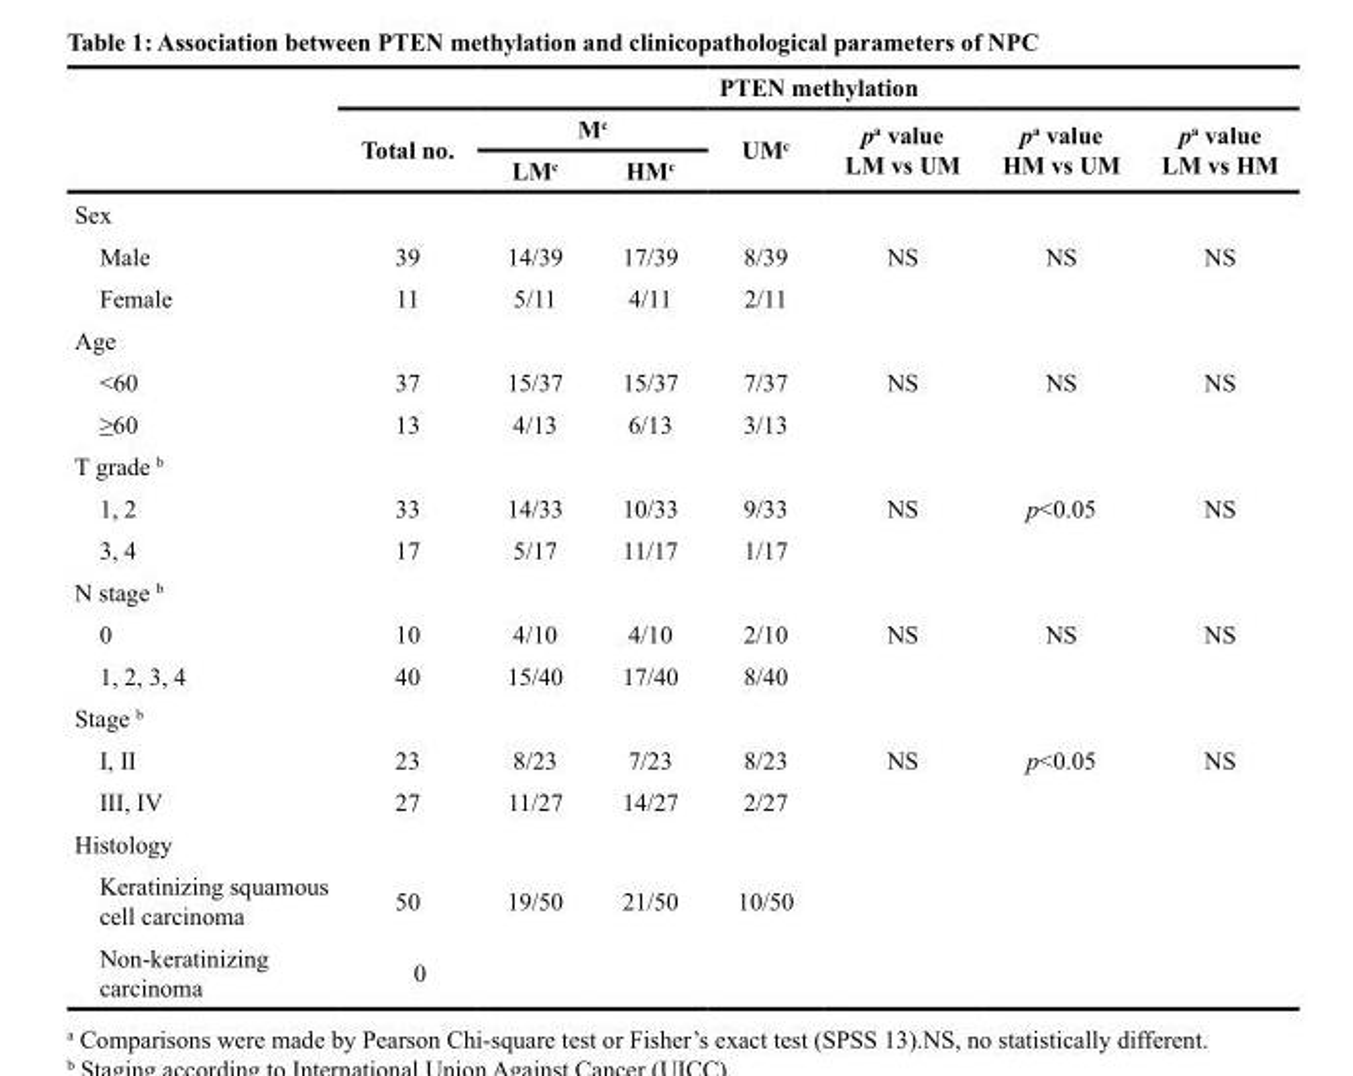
<table><thead><tr><td rowspan="3"></td><td colspan="7">PTEN methylation</td></tr><tr><td rowspan="2">Total no.</td><td colspan="2">M<sup>c</sup></td><td rowspan="2">UM<sup>c</sup></td><td rowspan="2">p<sup>a</sup> value LM vs UM</td><td rowspan="2">p<sup>a</sup> value HM vs UM</td><td rowspan="2">p<sup>a</sup> value LM vs HM</td></tr><tr><td>LM<sup>c</sup></td><td>HM<sup>c</sup></td></tr></thead><tbody><tr><td colspan="8">Sex</td></tr><tr><td>Male</td><td>39</td><td>14/39</td><td>17/39</td><td>8/39</td><td>NS</td><td>NS</td><td>NS</td></tr><tr><td>Female</td><td>11</td><td>5/11</td><td>4/11</td><td>2/11</td><td></td><td></td><td></td></tr><tr><td colspan="8">Age</td></tr><tr><td>&lt;60</td><td>37</td><td>15/37</td><td>15/37</td><td>7/37</td><td>NS</td><td>NS</td><td>NS</td></tr><tr><td>≥60</td><td>13</td><td>4/13</td><td>6/13</td><td>3/13</td><td></td><td></td><td></td></tr><tr><td colspan="8">T grade <sup>b</sup></td></tr><tr><td>1, 2</td><td>33</td><td>14/33</td><td>10/33</td><td>9/33</td><td>NS</td><td>p&lt;0.05</td><td>NS</td></tr><tr><td>3, 4</td><td>17</td><td>5/17</td><td>11/17</td><td>1/17</td><td></td><td></td><td></td></tr><tr><td colspan="8">N stage <sup>b</sup></td></tr><tr><td>0</td><td>10</td><td>4/10</td><td>4/10</td><td>2/10</td><td>NS</td><td>NS</td><td>NS</td></tr><tr><td>1, 2, 3, 4</td><td>40</td><td>15/40</td><td>17/40</td><td>8/40</td><td></td><td></td><td></td></tr><tr><td colspan="8">Stage <sup>b</sup></td></tr><tr><td>I, II</td><td>23</td><td>8/23</td><td>7/23</td><td>8/23</td><td>NS</td><td>p&lt;0.05</td><td>NS</td></tr><tr><td>III, IV</td><td>27</td><td>11/27</td><td>14/27</td><td>2/27</td><td></td><td></td><td></td></tr><tr><td colspan="8">Histology</td></tr><tr><td>Keratinizing squamous cell carcinoma</td><td>50</td><td>19/50</td><td>21/50</td><td>10/50</td><td></td><td></td><td></td></tr><tr><td>Non-keratinizing carcinoma</td><td>0</td><td></td><td></td><td></td><td></td><td></td><td></td></tr></tbody></table>